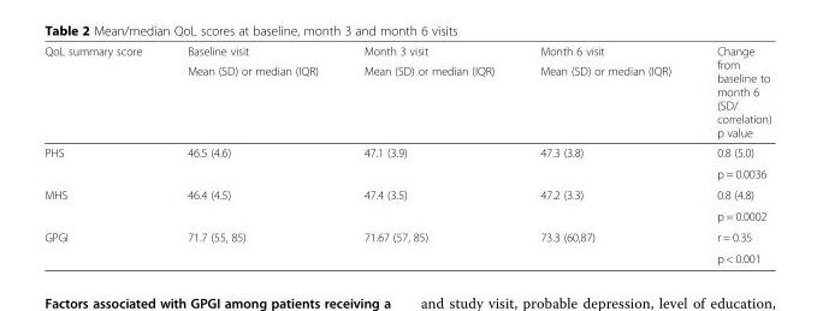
<table><thead><tr><td rowspan="2">QoL summary score</td><td rowspan="2">Baseline visit Mean (SD) or median (IQR)</td><td rowspan="2">Month 3 visit Mean (SD) or median (IQR)</td><td rowspan="2">Month 6 visit Mean (SD) or median (IQR)</td><td rowspan="2">Change from baseline to month 6 (SD/ correlation) p value</td></tr><tr></tr></thead><tbody><tr><td rowspan="2">PHS</td><td rowspan="2">46.5 (4.6)</td><td rowspan="2">47.1 (3.9)</td><td rowspan="2">47.3 (3.8)</td><td>0.8 (5.0)</td></tr><tr><td>p = 0.0036</td></tr><tr><td rowspan="2">MHS</td><td rowspan="2">46.4 (4.5)</td><td rowspan="2">47.4 (3.5)</td><td rowspan="2">47.2 (3.3)</td><td>0.8 (4.8)</td></tr><tr><td>p = 0.0002</td></tr><tr><td rowspan="2">GPGI</td><td rowspan="2">71.7 (55, 85)</td><td rowspan="2">71.67 (57, 85)</td><td rowspan="2">73.3 (60,87)</td><td>r = 0.35</td></tr><tr><td>p &lt; 0.001</td></tr></tbody></table>